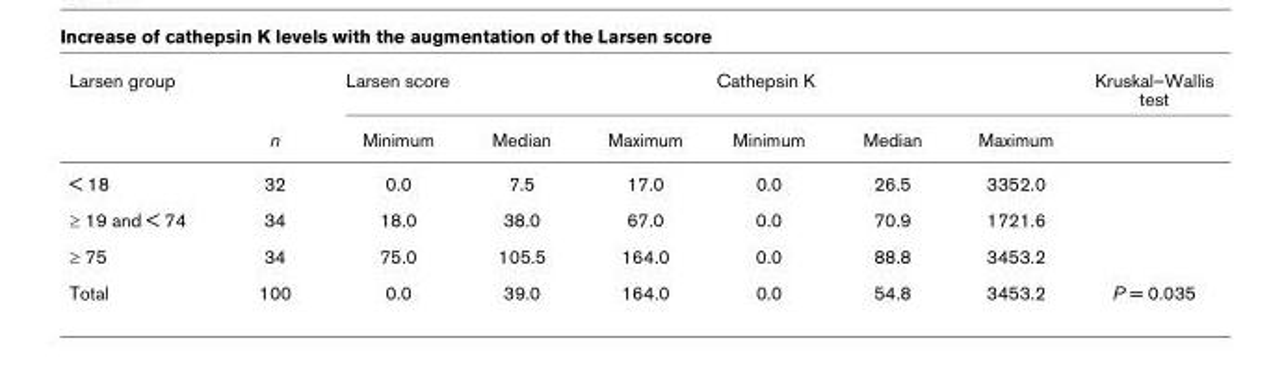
<table><thead><tr><td colspan="2">Larsen group</td><td colspan="3">Larsen score</td><td colspan="3">Cathepsin K</td><td rowspan="2">Kruskal–Wallis test</td></tr><tr><td></td><td>n</td><td>Minimum</td><td>Median</td><td>Maximum</td><td>Minimum</td><td>Median</td><td>Maximum</td></tr></thead><tbody><tr><td>&lt; 18</td><td>32</td><td>0.0</td><td>7.5</td><td>17.0</td><td>0.0</td><td>26.5</td><td>3352.0</td><td></td></tr><tr><td>≥ 19 and &lt; 74</td><td>34</td><td>18.0</td><td>38.0</td><td>67.0</td><td>0.0</td><td>70.9</td><td>1721.6</td><td></td></tr><tr><td>≥ 75</td><td>34</td><td>75.0</td><td>105.5</td><td>164.0</td><td>0.0</td><td>88.8</td><td>3453.2</td><td></td></tr><tr><td>Total</td><td>100</td><td>0.0</td><td>39.0</td><td>164.0</td><td>0.0</td><td>54.8</td><td>3453.2</td><td>P = 0.035</td></tr></tbody></table>